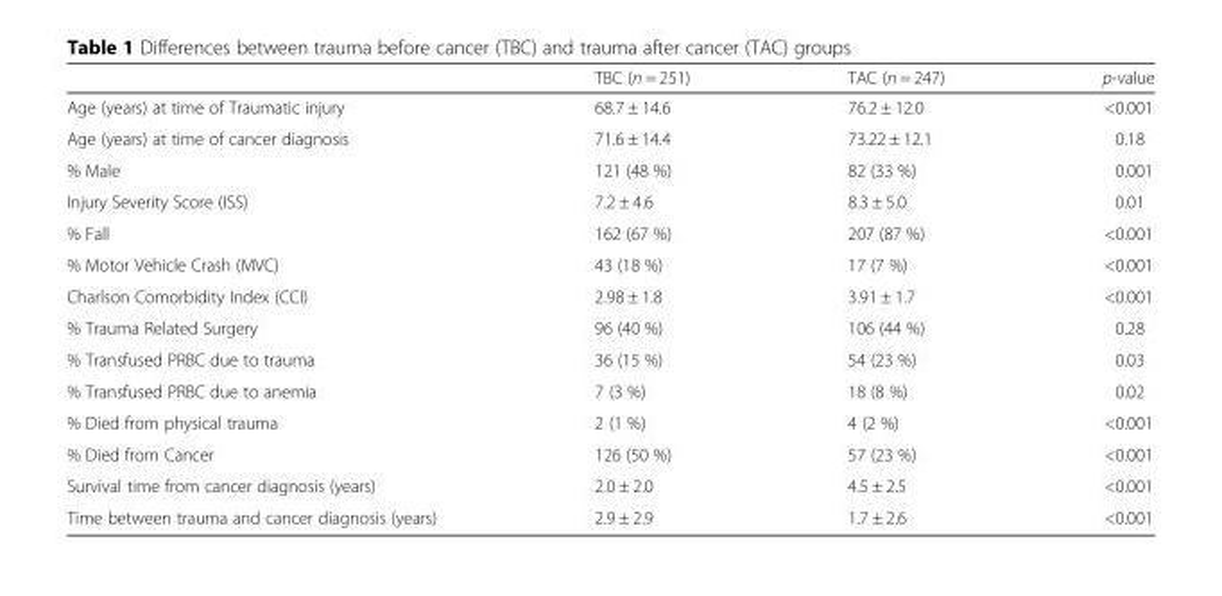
<table><thead><tr><td></td><td>TBC (n = 251)</td><td>TAC (n = 247)</td><td>p-value</td></tr></thead><tbody><tr><td>Age (years) at time of Traumatic injury</td><td>68.7 ± 14.6</td><td>76.2 ± 12.0</td><td>&lt;0.001</td></tr><tr><td>Age (years) at time of cancer diagnosis</td><td>71.6 ± 14.4</td><td>73.22 ± 12.1</td><td>0.18</td></tr><tr><td>% Male</td><td>121 (48 %)</td><td>82 (33 %)</td><td>0.001</td></tr><tr><td>Injury Severity Score (ISS)</td><td>7.2 ± 4.6</td><td>8.3 ± 5.0</td><td>0.01</td></tr><tr><td>% Fall</td><td>162 (67 %)</td><td>207 (87 %)</td><td>&lt;0.001</td></tr><tr><td>% Motor Vehicle Crash (MVC)</td><td>43 (18 %)</td><td>17 (7 %)</td><td>&lt;0.001</td></tr><tr><td>Charlson Comorbidity Index (CCI)</td><td>2.98 ± 1.8</td><td>3.91 ± 1.7</td><td>&lt;0.001</td></tr><tr><td>% Trauma Related Surgery</td><td>96 (40 %)</td><td>106 (44 %)</td><td>0.28</td></tr><tr><td>% Transfused PRBC due to trauma</td><td>36 (15 %)</td><td>54 (23 %)</td><td>0.03</td></tr><tr><td>% Transfused PRBC due to anemia</td><td>7 (3 %)</td><td>18 (8 %)</td><td>0.02</td></tr><tr><td>% Died from physical trauma</td><td>2 (1 %)</td><td>4 (2 %)</td><td>&lt;0.001</td></tr><tr><td>% Died from Cancer</td><td>126 (50 %)</td><td>57 (23 %)</td><td>&lt;0.001</td></tr><tr><td>Survival time from cancer diagnosis (years)</td><td>2.0 ± 2.0</td><td>4.5 ± 2.5</td><td>&lt;0.001</td></tr><tr><td>Time between trauma and cancer diagnosis (years)</td><td>2.9 ± 2.9</td><td>1.7 ± 2.6</td><td>&lt;0.001</td></tr></tbody></table>